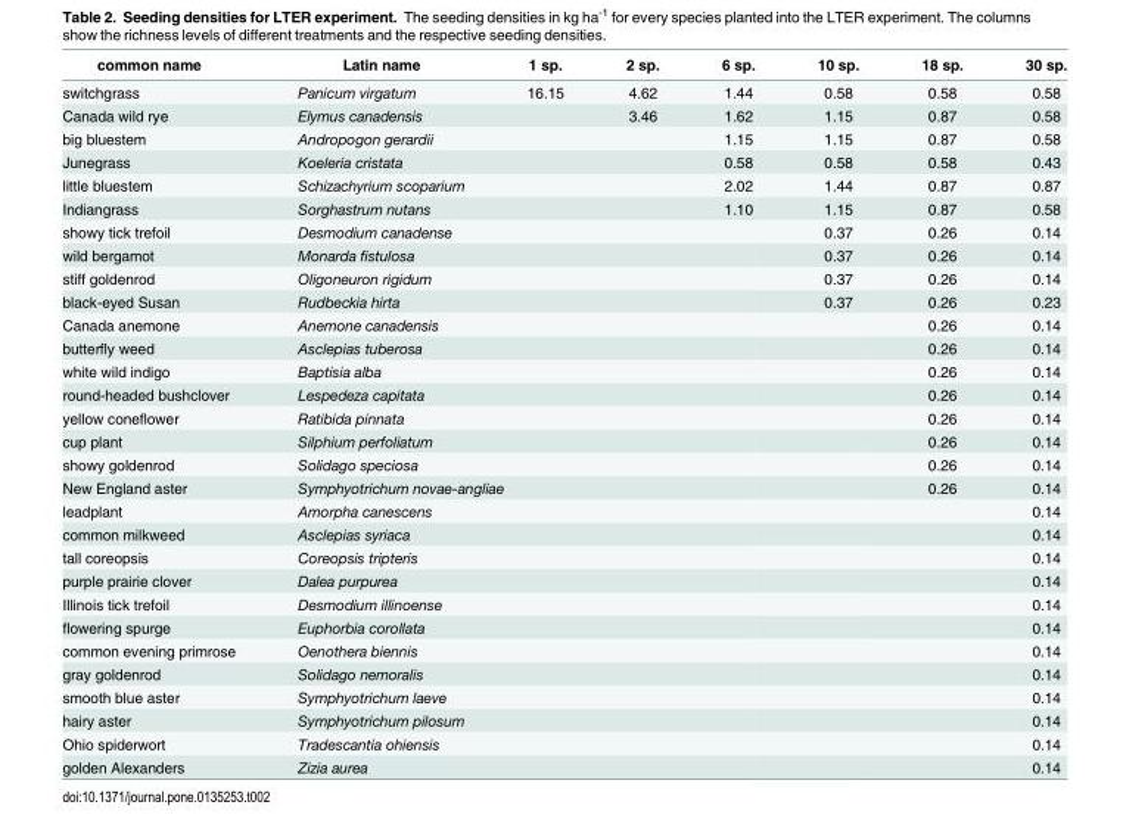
<table><thead><tr><td>common name</td><td>Latin name</td><td>1 sp.</td><td>2 sp.</td><td>6 sp.</td><td>10 sp.</td><td>18 sp.</td><td>30 sp.</td></tr></thead><tbody><tr><td>switchgrass</td><td>Panicum virgatum</td><td>16.15</td><td>4.62</td><td>1.44</td><td>0.58</td><td>0.58</td><td>0.58</td></tr><tr><td>Canada wild rye</td><td>Elymus canadensis</td><td></td><td>3.46</td><td>1.62</td><td>1.15</td><td>0.87</td><td>0.58</td></tr><tr><td>big bluestem</td><td>Andropogon gerardii</td><td></td><td></td><td>1.15</td><td>1.15</td><td>0.87</td><td>0.58</td></tr><tr><td>Junegrass</td><td>Koeleria cristata</td><td></td><td></td><td>0.58</td><td>0.58</td><td>0.58</td><td>0.43</td></tr><tr><td>little bluestem</td><td>Schizachyrium scoparium</td><td></td><td></td><td>2.02</td><td>1.44</td><td>0.87</td><td>0.87</td></tr><tr><td>Indiangrass</td><td>Sorghastrum nutans</td><td></td><td></td><td>1.10</td><td>1.15</td><td>0.87</td><td>0.58</td></tr><tr><td>showy tick trefoil</td><td>Desmodium canadense</td><td></td><td></td><td></td><td>0.37</td><td>0.26</td><td>0.14</td></tr><tr><td>wild bergamot</td><td>Monarda fistulosa</td><td></td><td></td><td></td><td>0.37</td><td>0.26</td><td>0.14</td></tr><tr><td>stiff goldenrod</td><td>Oligoneuron rigidum</td><td></td><td></td><td></td><td>0.37</td><td>0.26</td><td>0.14</td></tr><tr><td>black-eyed Susan</td><td>Rudbeckia hirta</td><td></td><td></td><td></td><td>0.37</td><td>0.26</td><td>0.23</td></tr><tr><td>Canada anemone</td><td>Anemone canadensis</td><td></td><td></td><td></td><td></td><td>0.26</td><td>0.14</td></tr><tr><td>butterfly weed</td><td>Asclepias tuberosa</td><td></td><td></td><td></td><td></td><td>0.26</td><td>0.14</td></tr><tr><td>white wild indigo</td><td>Baptisia alba</td><td></td><td></td><td></td><td></td><td>0.26</td><td>0.14</td></tr><tr><td>round-headed bushclover</td><td>Lespedeza capitata</td><td></td><td></td><td></td><td></td><td>0.26</td><td>0.14</td></tr><tr><td>yellow coneflower</td><td>Ratibida pinnata</td><td></td><td></td><td></td><td></td><td>0.26</td><td>0.14</td></tr><tr><td>cup plant</td><td>Silphium perfoliatum</td><td></td><td></td><td></td><td></td><td>0.26</td><td>0.14</td></tr><tr><td>showy goldenrod</td><td>Solidago speciosa</td><td></td><td></td><td></td><td></td><td>0.26</td><td>0.14</td></tr><tr><td>New England aster</td><td colspan="2">Symphyotrichum novae-angliae</td><td></td><td></td><td></td><td>0.26</td><td>0.14</td></tr><tr><td>leadplant</td><td>Amorpha canescens</td><td></td><td></td><td></td><td></td><td></td><td>0.14</td></tr><tr><td>common milkweed</td><td>Asclepias syriaca</td><td></td><td></td><td></td><td></td><td></td><td>0.14</td></tr><tr><td>tall coreopsis</td><td>Coreopsis tripteris</td><td></td><td></td><td></td><td></td><td></td><td>0.14</td></tr><tr><td>purple prairie clover</td><td>Dalea purpurea</td><td></td><td></td><td></td><td></td><td></td><td>0.14</td></tr><tr><td>Illinois tick trefoil</td><td>Desmodium illinoense</td><td></td><td></td><td></td><td></td><td></td><td>0.14</td></tr><tr><td>flowering spurge</td><td>Euphorbia corollata</td><td></td><td></td><td></td><td></td><td></td><td>0.14</td></tr><tr><td>common evening primrose</td><td>Oenothera biennis</td><td></td><td></td><td></td><td></td><td></td><td>0.14</td></tr><tr><td>gray goldenrod</td><td>Solidago nemoralis</td><td></td><td></td><td></td><td></td><td></td><td>0.14</td></tr><tr><td>smooth blue aster</td><td>Symphyotrichum laeve</td><td></td><td></td><td></td><td></td><td></td><td>0.14</td></tr><tr><td>hairy aster</td><td>Symphyotrichum pilosum</td><td></td><td></td><td></td><td></td><td></td><td>0.14</td></tr><tr><td>Ohio spiderwort</td><td>Tradescantia ohiensis</td><td></td><td></td><td></td><td></td><td></td><td>0.14</td></tr><tr><td>golden Alexanders</td><td>Zizia aurea</td><td></td><td></td><td></td><td></td><td></td><td>0.14</td></tr></tbody></table>